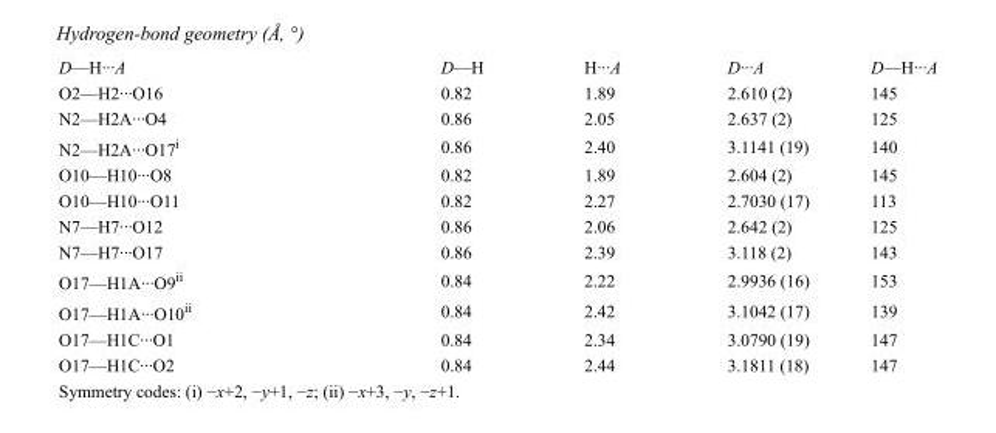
<table><tbody><tr><td>D—H···A</td><td>D—H</td><td>H···A</td><td>D···A</td><td>D—H···A</td></tr><tr><td>O2—H2···O16</td><td>0.82</td><td>1.89</td><td>2.610 (2)</td><td>145</td></tr><tr><td>N2—H2A···O4</td><td>0.86</td><td>2.05</td><td>2.637 (2)</td><td>125</td></tr><tr><td>N2—H2A···O17<sup>i</sup></td><td>0.86</td><td>2.40</td><td>3.1141 (19)</td><td>140</td></tr><tr><td>O10—H10···O8</td><td>0.82</td><td>1.89</td><td>2.604 (2)</td><td>145</td></tr><tr><td>O10—H10···O11</td><td>0.82</td><td>2.27</td><td>2.7030 (17)</td><td>113</td></tr><tr><td>N7—H7···O12</td><td>0.86</td><td>2.06</td><td>2.642 (2)</td><td>125</td></tr><tr><td>N7—H7···O17</td><td>0.86</td><td>2.39</td><td>3.118 (2)</td><td>143</td></tr><tr><td>O17—H1A···O9<sup>ii</sup></td><td>0.84</td><td>2.22</td><td>2.9936 (16)</td><td>153</td></tr><tr><td>O17—H1A···O10<sup>ii</sup></td><td>0.84</td><td>2.42</td><td>3.1042 (17)</td><td>139</td></tr><tr><td>O17—H1C···O1</td><td>0.84</td><td>2.34</td><td>3.0790 (19)</td><td>147</td></tr><tr><td>O17—H1C···O2</td><td>0.84</td><td>2.44</td><td>3.1811 (18)</td><td>147</td></tr></tbody></table>